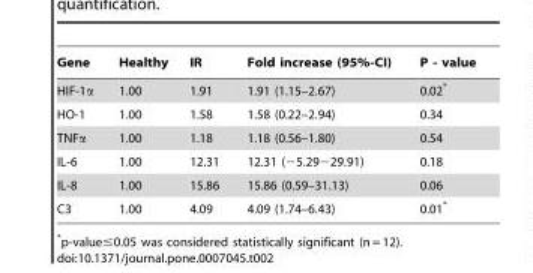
<table><thead><tr><td>Gene</td><td>Healthy</td><td>IR</td><td>Fold increase (95%-CI)</td><td>P - value</td></tr></thead><tbody><tr><td>HIF-1α</td><td>1.00</td><td>1.91</td><td>1.91 (1.15–2.67)</td><td>0.02*</td></tr><tr><td>HO-1</td><td>1.00</td><td>1.58</td><td>1.58 (0.22–2.94)</td><td>0.34</td></tr><tr><td>TNFα</td><td>1.00</td><td>1.18</td><td>1.18 (0.56–1.80)</td><td>0.54</td></tr><tr><td>IL-6</td><td>1.00</td><td>12.31</td><td>12.31 (−5.29−29.91)</td><td>0.18</td></tr><tr><td>IL-8</td><td>1.00</td><td>15.86</td><td>15.86 (0.59–31.13)</td><td>0.06</td></tr><tr><td>C3</td><td>1.00</td><td>4.09</td><td>4.09 (1.74–6.43)</td><td>0.01*</td></tr></tbody></table>